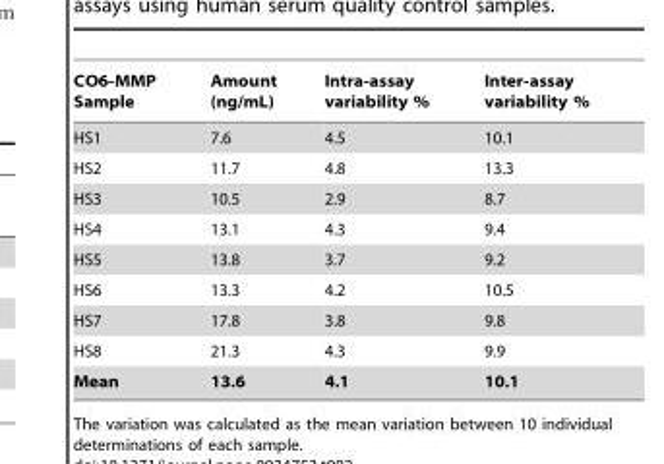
<table><thead><tr><td>CO6-MMP Sample</td><td>Amount (ng/mL)</td><td>Intra-assay variability %</td><td>Inter-assay variability %</td></tr></thead><tbody><tr><td>HS1</td><td>7.6</td><td>4.5</td><td>10.1</td></tr><tr><td>HS2</td><td>11.7</td><td>4.8</td><td>13.3</td></tr><tr><td>HS3</td><td>10.5</td><td>2.9</td><td>8.7</td></tr><tr><td>HS4</td><td>13.1</td><td>4.3</td><td>9.4</td></tr><tr><td>HS5</td><td>13.8</td><td>3.7</td><td>9.2</td></tr><tr><td>HS6</td><td>13.3</td><td>4.2</td><td>10.5</td></tr><tr><td>HS7</td><td>17.8</td><td>3.8</td><td>9.8</td></tr><tr><td>HS8</td><td>21.3</td><td>4.3</td><td>9.9</td></tr><tr><td>Mean</td><td>13.6</td><td>4.1</td><td>10.1</td></tr></tbody></table>